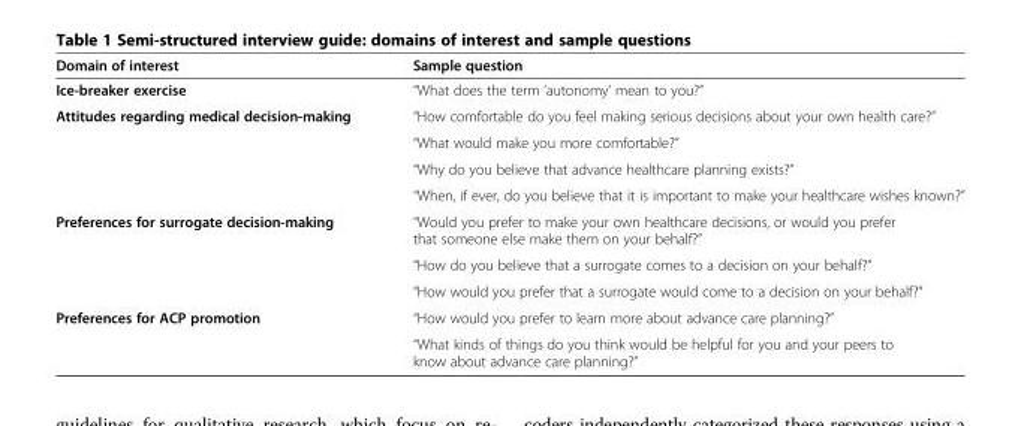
<table><thead><tr><td>Domain of interest</td><td>Sample question</td></tr></thead><tbody><tr><td>Ice-breaker exercise</td><td>“What does the term ‘autonomy’ mean to you?”</td></tr><tr><td rowspan="4">Attitudes regarding medical decision-making</td><td>“How comfortable do you feel making serious decisions about your own health care?”</td></tr><tr><td>“What would make you more comfortable?”</td></tr><tr><td>“Why do you believe that advance healthcare planning exists?”</td></tr><tr><td>“When, if ever, do you believe that it is important to make your healthcare wishes known?”</td></tr><tr><td rowspan="3">Preferences for surrogate decision-making</td><td>“Would you prefer to make your own healthcare decisions, or would you prefer that someone else make them on your behalf?”</td></tr><tr><td>“How do you believe that a surrogate comes to a decision on your behalf?”</td></tr><tr><td>“How would you prefer that a surrogate would come to a decision on your behalf?”</td></tr><tr><td rowspan="2">Preferences for ACP promotion</td><td>“How would you prefer to learn more about advance care planning?”</td></tr><tr><td>“What kinds of things do you think would be helpful for you and your peers to know about advance care planning?”</td></tr></tbody></table>